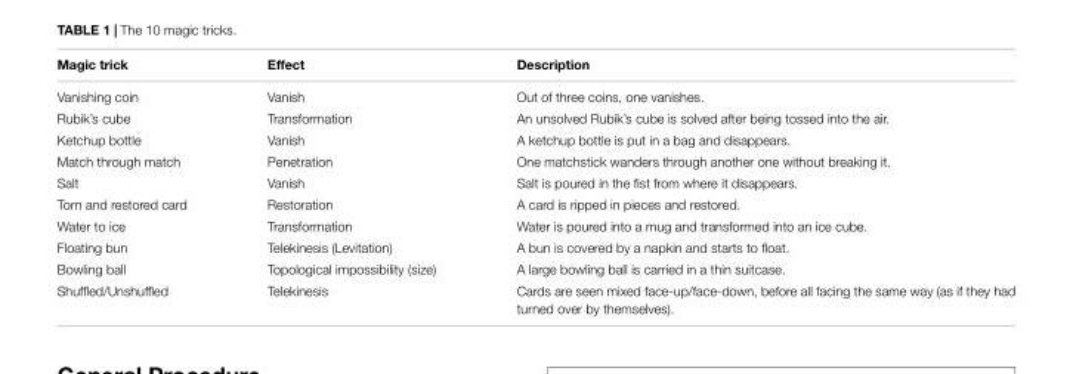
<table><thead><tr><td>Magic trick</td><td>Effect</td><td>Description</td></tr></thead><tbody><tr><td>Vanishing coin</td><td>Vanish</td><td>Out of three coins, one vanishes.</td></tr><tr><td>Rubik’s cube</td><td>Transformation</td><td>An unsolved Rubik’s cube is solved after being tossed into the air.</td></tr><tr><td>Ketchup bottle</td><td>Vanish</td><td>A ketchup bottle is put in a bag and disappears.</td></tr><tr><td>Match through match</td><td>Penetration</td><td>One matchstick wanders through another one without breaking it.</td></tr><tr><td>Salt</td><td>Vanish</td><td>Salt is poured in the fist from where it disappears.</td></tr><tr><td>Torn and restored card</td><td>Restoration</td><td>A card is ripped in pieces and restored.</td></tr><tr><td>Water to ice</td><td>Transformation</td><td>Water is poured into a mug and transformed into an ice cube.</td></tr><tr><td>Floating bun</td><td>Telekinesis (Levitation)</td><td>A bun is covered by a napkin and starts to float.</td></tr><tr><td>Bowling ball</td><td>Topological impossibility (size)</td><td>A large bowling ball is carried in a thin suitcase.</td></tr><tr><td>Shuffled/Unshuffled</td><td>Telekinesis</td><td>Cards are seen mixed face-up/face-down, before all facing the same way (as if they had turned over by themselves).</td></tr></tbody></table>